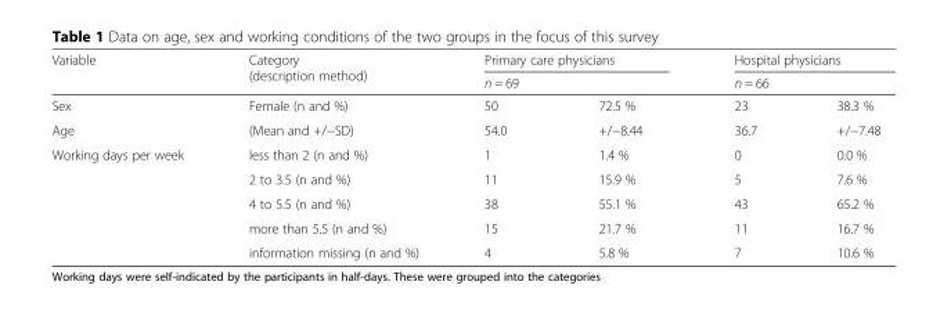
<table><thead><tr><td rowspan="3">Variable Sex</td><td rowspan="3">Category (description method) Female (n and %)</td><td rowspan="2" colspan="2">Primary care physicians n = 69</td><td rowspan="2" colspan="2">Hospital physicians n = 66</td></tr><tr></tr><tr><td>50</td><td>72.5 %</td><td>23</td><td>38.3 %</td></tr></thead><tbody><tr><td>Age</td><td>(Mean and +/−SD)</td><td>54.0</td><td>+/−8.44</td><td>36.7</td><td>+/−7.48</td></tr><tr><td rowspan="5">Working days per week</td><td>less than 2 (n and %)</td><td>1</td><td>1.4 %</td><td>0</td><td>0.0 %</td></tr><tr><td>2 to 3.5 (n and %)</td><td>11</td><td>15.9 %</td><td>5</td><td>7.6 %</td></tr><tr><td>4 to 5.5 (n and %)</td><td>38</td><td>55.1 %</td><td>43</td><td>65.2 %</td></tr><tr><td>more than 5.5 (n and %)</td><td>15</td><td>21.7 %</td><td>11</td><td>16.7 %</td></tr><tr><td>information missing (n and %)</td><td>4</td><td>5.8 %</td><td>7</td><td>10.6 %</td></tr></tbody></table>